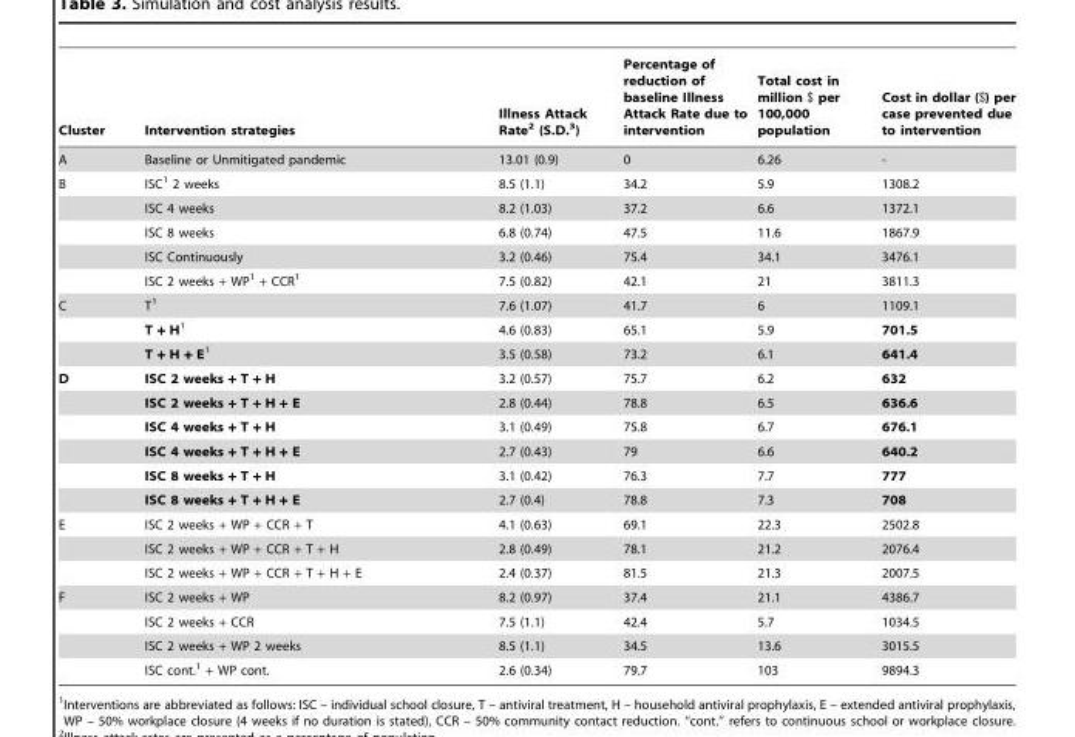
<table><thead><tr><td>Cluster</td><td>Intervention strategies</td><td>Illness Attack Rate<sup>2</sup> (S.D.<sup>3</sup>)</td><td>Percentage of reduction of baseline Illness Attack Rate due to intervention</td><td>Total cost in million $ per 100,000 population</td><td>Cost in dollar ($) per case prevented due to intervention</td></tr></thead><tbody><tr><td>A</td><td>Baseline or Unmitigated pandemic</td><td>13.01 (0.9)</td><td>0</td><td>6.26</td><td>-</td></tr><tr><td rowspan="5">B</td><td>ISC<sup>1</sup> 2 weeks</td><td>8.5 (1.1)</td><td>34.2</td><td>5.9</td><td>1308.2</td></tr><tr><td>ISC 4 weeks</td><td>8.2 (1.03)</td><td>37.2</td><td>6.6</td><td>1372.1</td></tr><tr><td>ISC 8 weeks</td><td>6.8 (0.74)</td><td>47.5</td><td>11.6</td><td>1867.9</td></tr><tr><td>ISC Continuously</td><td>3.2 (0.46)</td><td>75.4</td><td>34.1</td><td>3476.1</td></tr><tr><td>ISC 2 weeks + WP<sup>1</sup> + CCR<sup>1</sup></td><td>7.5 (0.82)</td><td>42.1</td><td>21</td><td>3811.3</td></tr><tr><td rowspan="3">C</td><td>T<sup>1</sup></td><td>7.6 (1.07)</td><td>41.7</td><td>6</td><td>1109.1</td></tr><tr><td>T + H1</td><td>4.6 (0.83)</td><td>65.1</td><td>5.9</td><td>701.5</td></tr><tr><td>T + H + E1</td><td>3.5 (0.58)</td><td>73.2</td><td>6.1</td><td>641.4</td></tr><tr><td rowspan="6">D</td><td>ISC 2 weeks + T + H</td><td>3.2 (0.57)</td><td>75.7</td><td>6.2</td><td>632</td></tr><tr><td>ISC 2 weeks + T + H + E</td><td>2.8 (0.44)</td><td>78.8</td><td>6.5</td><td>636.6</td></tr><tr><td>ISC 4 weeks + T + H</td><td>3.1 (0.49)</td><td>75.8</td><td>6.7</td><td>676.1</td></tr><tr><td>ISC 4 weeks + T + H + E</td><td>2.7 (0.43)</td><td>79</td><td>6.6</td><td>640.2</td></tr><tr><td>ISC 8 weeks + T + H</td><td>3.1 (0.42)</td><td>76.3</td><td>7.7</td><td>777</td></tr><tr><td>ISC 8 weeks + T + H + E</td><td>2.7 (0.4)</td><td>78.8</td><td>7.3</td><td>708</td></tr><tr><td rowspan="3">E</td><td>ISC 2 weeks + WP + CCR + T</td><td>4.1 (0.63)</td><td>69.1</td><td>22.3</td><td>2502.8</td></tr><tr><td>ISC 2 weeks + WP + CCR + T + H</td><td>2.8 (0.49)</td><td>78.1</td><td>21.2</td><td>2076.4</td></tr><tr><td>ISC 2 weeks + WP + CCR + T + H + E</td><td>2.4 (0.37)</td><td>81.5</td><td>21.3</td><td>2007.5</td></tr><tr><td rowspan="4">F</td><td>ISC 2 weeks + WP</td><td>8.2 (0.97)</td><td>37.4</td><td>21.1</td><td>4386.7</td></tr><tr><td>ISC 2 weeks + CCR</td><td>7.5 (1.1)</td><td>42.4</td><td>5.7</td><td>1034.5</td></tr><tr><td>ISC 2 weeks + WP 2 weeks</td><td>8.5 (1.1)</td><td>34.5</td><td>13.6</td><td>3015.5</td></tr><tr><td>ISC cont.<sup>1</sup> + WP cont.</td><td>2.6 (0.34)</td><td>79.7</td><td>103</td><td>9894.3</td></tr></tbody></table>